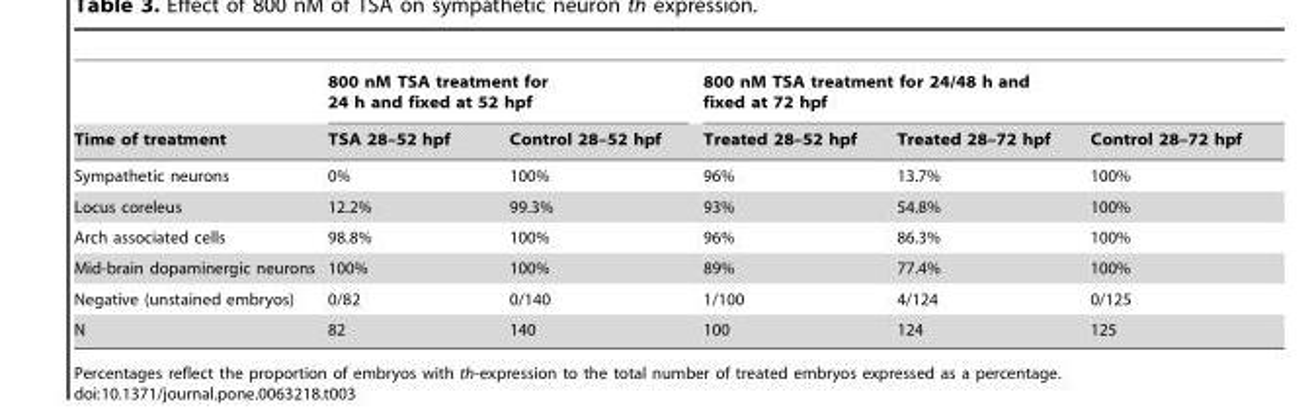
<table><thead><tr><td rowspan="2">Time of treatment</td><td colspan="2">800 nM TSA treatment for 24 h and fixed at 52 hpf</td><td colspan="3">800 nM TSA treatment for 24/48 h and fixed at 72 hpf</td></tr><tr><td>TSA 28–52 hpf</td><td>Control 28–52 hpf</td><td>Treated 28–52 hpf</td><td>Treated 28–72 hpf</td><td>Control 28–72 hpf</td></tr></thead><tbody><tr><td>Sympathetic neurons</td><td>0%</td><td>100%</td><td>96%</td><td>13.7%</td><td>100%</td></tr><tr><td>Locus coreleus</td><td>12.2%</td><td>99.3%</td><td>93%</td><td>54.8%</td><td>100%</td></tr><tr><td>Arch associated cells</td><td>98.8%</td><td>100%</td><td>96%</td><td>86.3%</td><td>100%</td></tr><tr><td>Mid-brain dopaminergic neurons</td><td>100%</td><td>100%</td><td>89%</td><td>77.4%</td><td>100%</td></tr><tr><td>Negative (unstained embryos)</td><td>0/82</td><td>0/140</td><td>1/100</td><td>4/124</td><td>0/125</td></tr><tr><td>N</td><td>82</td><td>140</td><td>100</td><td>124</td><td>125</td></tr></tbody></table>